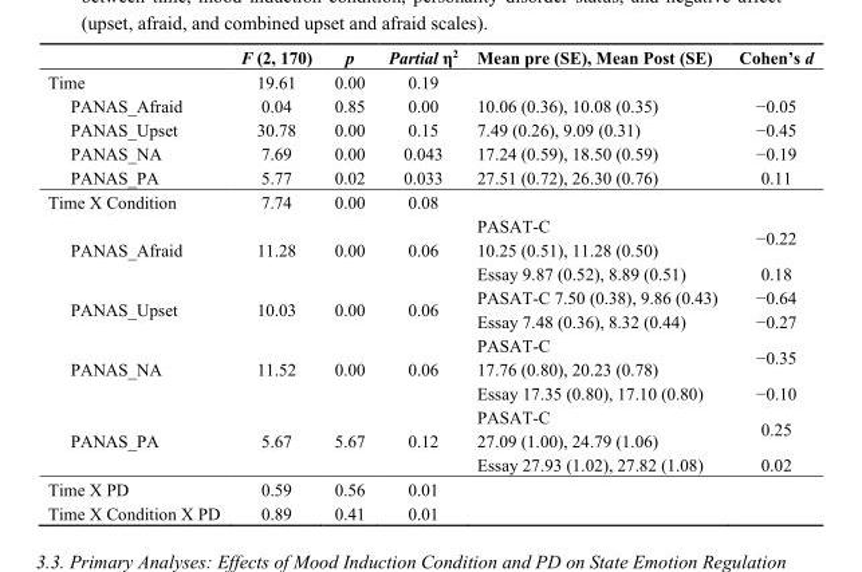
<table><thead><tr><td></td><td>F (2, 170)</td><td>p</td><td>Partial η<sup>2</sup></td><td>Mean pre (SE), Mean Post (SE)</td><td>Cohen’s d</td></tr></thead><tbody><tr><td>Time</td><td>19.61</td><td>0.00</td><td>0.19</td><td></td><td></td></tr><tr><td>PANAS_Afraid</td><td>0.04</td><td>0.85</td><td>0.00</td><td>10.06 (0.36), 10.08 (0.35)</td><td>−0.05</td></tr><tr><td>PANAS_Upset</td><td>30.78</td><td>0.00</td><td>0.15</td><td>7.49 (0.26), 9.09 (0.31)</td><td>−0.45</td></tr><tr><td>PANAS_NA</td><td>7.69</td><td>0.00</td><td>0.043</td><td>17.24 (0.59), 18.50 (0.59)</td><td>−0.19</td></tr><tr><td>PANAS_PA</td><td>5.77</td><td>0.02</td><td>0.033</td><td>27.51 (0.72), 26.30 (0.76)</td><td>0.11</td></tr><tr><td>Time X Condition</td><td>7.74</td><td>0.00</td><td>0.08</td><td></td><td></td></tr><tr><td rowspan="2">PANAS_Afraid</td><td rowspan="2">11.28</td><td rowspan="2">0.00</td><td rowspan="2">0.06</td><td>PASAT-C 10.25 (0.51), 11.28 (0.50)</td><td>−0.22</td></tr><tr><td>Essay 9.87 (0.52), 8.89 (0.51)</td><td>0.18</td></tr><tr><td rowspan="2">PANAS_Upset</td><td rowspan="2">10.03</td><td rowspan="2">0.00</td><td rowspan="2">0.06</td><td>PASAT-C 7.50 (0.38), 9.86 (0.43)</td><td>−0.64</td></tr><tr><td>Essay 7.48 (0.36), 8.32 (0.44)</td><td>−0.27</td></tr><tr><td rowspan="2">PANAS_NA</td><td rowspan="2">11.52</td><td rowspan="2">0.00</td><td rowspan="2">0.06</td><td>PASAT-C 17.76 (0.80), 20.23 (0.78)</td><td>−0.35</td></tr><tr><td>Essay 17.35 (0.80), 17.10 (0.80)</td><td>−0.10</td></tr><tr><td rowspan="2">PANAS_PA</td><td rowspan="2">5.67</td><td rowspan="2">5.67</td><td rowspan="2">0.12</td><td>PASAT-C 27.09 (1.00), 24.79 (1.06)</td><td>0.25</td></tr><tr><td>Essay 27.93 (1.02), 27.82 (1.08)</td><td>0.02</td></tr><tr><td>Time X PD</td><td>0.59</td><td>0.56</td><td>0.01</td><td></td><td></td></tr><tr><td>Time X Condition X PD</td><td>0.89</td><td>0.41</td><td>0.01</td><td></td><td></td></tr></tbody></table>